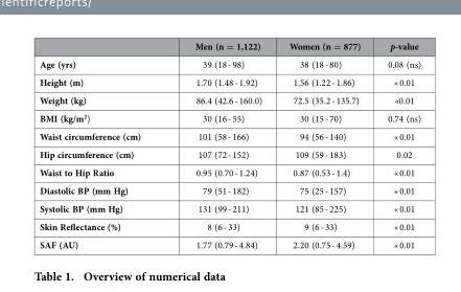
<table><thead><tr><td></td><td>Men (n = 1,122)</td><td>Women (n = 877)</td><td>p-value</td></tr></thead><tbody><tr><td>Age (yrs)</td><td>39 (18 - 98)</td><td>38 (18 - 80)</td><td>0.08 (ns)</td></tr><tr><td>Height (m)</td><td>1.70 (1.48 - 1.92)</td><td>1.56 (1.22 - 1.86)</td><td>« 0.01</td></tr><tr><td>Weight (kg)</td><td>86.4 (42.6 - 160.0)</td><td>72.5 (35.2 - 135.7)</td><td>«0.01</td></tr><tr><td>BMI (kg/m<sup>2</sup>)</td><td>30 (16 - 55)</td><td>30 (15 - 70)</td><td>0.74 (ns)</td></tr><tr><td>Waist circumference (cm)</td><td>101 (58 - 166)</td><td>94 (56 - 140)</td><td>« 0.01</td></tr><tr><td>Hip circumference (cm)</td><td>107 (72 - 152)</td><td>109 (59 - 183)</td><td>0.02</td></tr><tr><td>Waist to Hip Ratio</td><td>0.95 (0.70 - 1.24)</td><td>0.87 (0.53 - 1.4)</td><td>« 0.01</td></tr><tr><td>Diastolic BP (mm Hg)</td><td>79 (51 - 182)</td><td>75 (25 - 157)</td><td>« 0.01</td></tr><tr><td>Systolic BP (mm Hg)</td><td>131 (99 - 211)</td><td>121 (85 - 225)</td><td>« 0.01</td></tr><tr><td>Skin Reflectance (%)</td><td>8 (6 - 33)</td><td>9 (6 - 33)</td><td>« 0.01</td></tr><tr><td>SAF (AU)</td><td>1.77 (0.79 - 4.84)</td><td>2.20 (0.75 - 4.59)</td><td>« 0.01</td></tr></tbody></table>